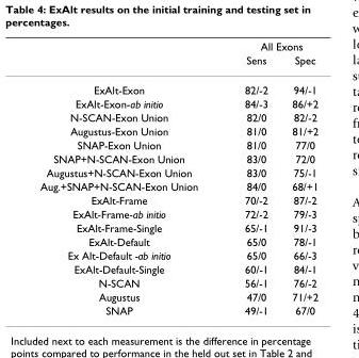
<table><thead><tr><td rowspan="2"></td><td colspan="2">All Exons</td></tr><tr><td>Sens</td><td>Spec</td></tr></thead><tbody><tr><td>ExAlt-Exon</td><td>82/-2</td><td>94/-1</td></tr><tr><td>ExAlt-Exon-ab initio</td><td>84/-3</td><td>86/+2</td></tr><tr><td>N-SCAN-Exon Union</td><td>82/0</td><td>82/-2</td></tr><tr><td>Augustus-Exon Union</td><td>81/0</td><td>81/+2</td></tr><tr><td>SNAP-Exon Union</td><td>81/0</td><td>77/0</td></tr><tr><td>SNAP+N-SCAN-Exon Union</td><td>83/0</td><td>72/0</td></tr><tr><td>Augustus+N-SCAN-Exon Union</td><td>83/0</td><td>75/-1</td></tr><tr><td>Aug.+SNAP+N-SCAN-Exon Union</td><td>84/0</td><td>68/+1</td></tr><tr><td>ExAlt-Frame</td><td>70/-2</td><td>87/-2</td></tr><tr><td>ExAlt-Frame-ab initio</td><td>72/-2</td><td>79/-3</td></tr><tr><td>ExAlt-Frame-Single</td><td>65/-1</td><td>91/-3</td></tr><tr><td>ExAlt-Default</td><td>65/0</td><td>78/-1</td></tr><tr><td>Ex Alt-Default -ab initio</td><td>65/0</td><td>66/-3</td></tr><tr><td>ExAlt-Default-Single</td><td>60/-1</td><td>84/-1</td></tr><tr><td>N-SCAN</td><td>56/-1</td><td>76/-2</td></tr><tr><td>Augustus</td><td>47/0</td><td>71/+2</td></tr><tr><td>SNAP</td><td>49/-1</td><td>67/0</td></tr></tbody></table>